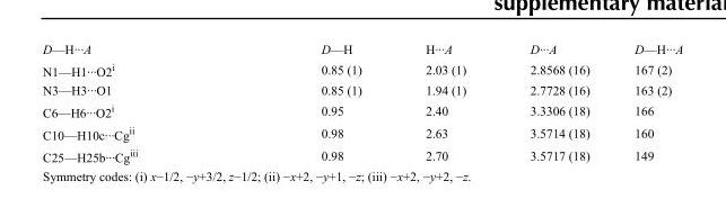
<table><tbody><tr><td>D—H···A</td><td>D—H</td><td>H···A</td><td>D···A</td><td>D—H···A</td></tr><tr><td>N1—H1···O2<sup>i</sup></td><td>0.85 (1)</td><td>2.03 (1)</td><td>2.8568 (16)</td><td>167 (2)</td></tr><tr><td>N3—H3···O1</td><td>0.85 (1)</td><td>1.94 (1)</td><td>2.7728 (16)</td><td>163 (2)</td></tr><tr><td>C6—H6···O2<sup>i</sup></td><td>0.95</td><td>2.40</td><td>3.3306 (18)</td><td>166</td></tr><tr><td>C10—H10c···Cg<sup>ii</sup></td><td>0.98</td><td>2.63</td><td>3.5714 (18)</td><td>160</td></tr><tr><td>C25—H25b···Cg<sup>iii</sup></td><td>0.98</td><td>2.70</td><td>3.5717 (18)</td><td>149</td></tr></tbody></table>